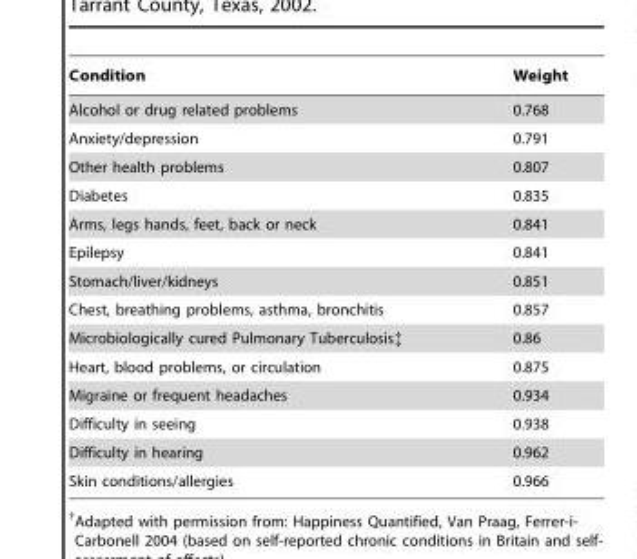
<table><thead><tr><td>Condition</td><td>Weight</td></tr></thead><tbody><tr><td>Alcohol or drug related problems</td><td>0.768</td></tr><tr><td>Anxiety/depression</td><td>0.791</td></tr><tr><td>Other health problems</td><td>0.807</td></tr><tr><td>Diabetes</td><td>0.835</td></tr><tr><td>Arms, legs hands, feet, back or neck</td><td>0.841</td></tr><tr><td>Epilepsy</td><td>0.841</td></tr><tr><td>Stomach/liver/kidneys</td><td>0.851</td></tr><tr><td>Chest, breathing problems, asthma, bronchitis</td><td>0.857</td></tr><tr><td>Microbiologically cured Pulmonary Tuberculosis‡</td><td>0.86</td></tr><tr><td>Heart, blood problems, or circulation</td><td>0.875</td></tr><tr><td>Migraine or frequent headaches</td><td>0.934</td></tr><tr><td>Difficulty in seeing</td><td>0.938</td></tr><tr><td>Difficulty in hearing</td><td>0.962</td></tr><tr><td>Skin conditions/allergies</td><td>0.966</td></tr></tbody></table>